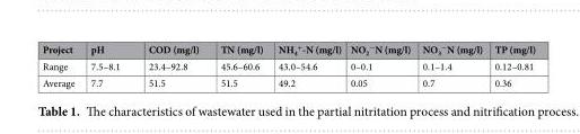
<table><thead><tr><td>Project</td><td>pH</td><td>COD (mg/l)</td><td>TN (mg/l)</td><td>NH<sub>4</sub> <sup>+</sup>-N (mg/l)</td><td>NO<sub>2</sub> <sup>−</sup>N (mg/l)</td><td>NO<sub>3</sub> <sup>−</sup>N (mg/l)</td><td>TP (mg/l)</td></tr></thead><tbody><tr><td>Range</td><td>7.5–8.1</td><td>23.4–92.8</td><td>45.6–60.6</td><td>43.0–54.6</td><td>0–0.1</td><td>0.1–1.4</td><td>0.12–0.81</td></tr><tr><td>Average</td><td>7.7</td><td>51.5</td><td>51.5</td><td>49.2</td><td>0.05</td><td>0.7</td><td>0.36</td></tr></tbody></table>